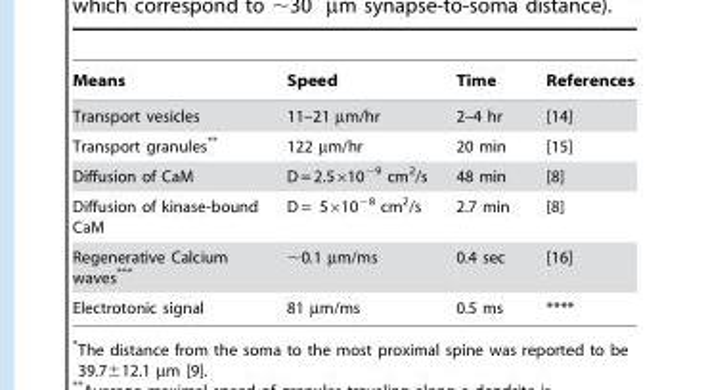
<table><thead><tr><td>Means</td><td>Speed</td><td>Time</td><td>References</td></tr></thead><tbody><tr><td>Transport vesicles</td><td>11–21 µm/hr</td><td>2–4 hr</td><td>[14]</td></tr><tr><td>Transport granules**</td><td>122 µm/hr</td><td>20 min</td><td>[15]</td></tr><tr><td>Diffusion of CaM</td><td>D = 2.5×10<sup>−9</sup> cm<sup>2</sup>/s</td><td>48 min</td><td>[8]</td></tr><tr><td>Diffusion of kinase-bound CaM</td><td>D = 5×10<sup>−8</sup> cm<sup>2</sup>/s</td><td>2.7 min</td><td>[8]</td></tr><tr><td>Regenerative Calcium waves***</td><td>∼0.1 µm/ms</td><td>0.4 sec</td><td>[16]</td></tr><tr><td>Electrotonic signal</td><td>81 µm/ms</td><td>0.5 ms</td><td>****</td></tr></tbody></table>